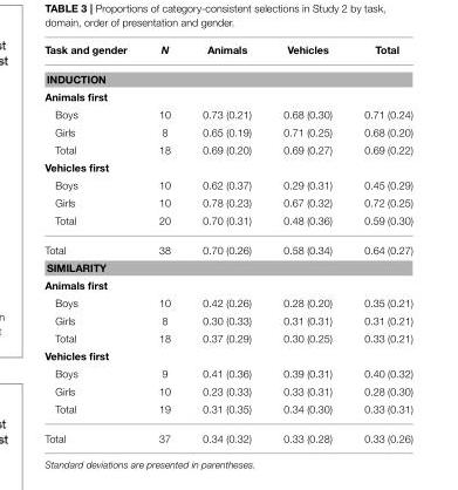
<table><thead><tr><td>Task and gender</td><td>N</td><td>Animals</td><td>Vehicles</td><td>Total</td></tr></thead><tbody><tr><td colspan="5">INDUCTION</td></tr><tr><td colspan="5">Animals first</td></tr><tr><td>Boys</td><td>10</td><td>0.73 (0.21)</td><td>0.68 (0.30)</td><td>0.71 (0.24)</td></tr><tr><td>Girls</td><td>8</td><td>0.65 (0.19)</td><td>0.71 (0.25)</td><td>0.68 (0.20)</td></tr><tr><td>Total</td><td>18</td><td>0.69 (0.20)</td><td>0.69 (0.27)</td><td>0.69 (0.22)</td></tr><tr><td colspan="5">Vehicles first</td></tr><tr><td>Boys</td><td>10</td><td>0.62 (0.37)</td><td>0.29 (0.31)</td><td>0.45 (0.29)</td></tr><tr><td>Girls</td><td>10</td><td>0.78 (0.23)</td><td>0.67 (0.32)</td><td>0.72 (0.25)</td></tr><tr><td>Total</td><td>20</td><td>0.70 (0.31)</td><td>0.48 (0.36)</td><td>0.59 (0.30)</td></tr><tr><td>Total</td><td>38</td><td>0.70 (0.26)</td><td>0.58 (0.34)</td><td>0.64 (0.27)</td></tr><tr><td colspan="5">SIMILARITY</td></tr><tr><td colspan="5">Animals first</td></tr><tr><td>Boys</td><td>10</td><td>0.42 (0.26)</td><td>0.28 (0.20)</td><td>0.35 (0.21)</td></tr><tr><td>Girls</td><td>8</td><td>0.30 (0.33)</td><td>0.31 (0.31)</td><td>0.31 (0.21)</td></tr><tr><td>Total</td><td>18</td><td>0.37 (0.29)</td><td>0.30 (0.25)</td><td>0.33 (0.21)</td></tr><tr><td colspan="5">Vehicles first</td></tr><tr><td>Boys</td><td>9</td><td>0.41 (0.36)</td><td>0.39 (0.31)</td><td>0.40 (0.32)</td></tr><tr><td>Girls</td><td>10</td><td>0.23 (0.33)</td><td>0.33 (0.31)</td><td>0.28 (0.30)</td></tr><tr><td>Total</td><td>19</td><td>0.31 (0.35)</td><td>0.34 (0.30)</td><td>0.33 (0.31)</td></tr><tr><td>Total</td><td>37</td><td>0.34 (0.32)</td><td>0.33 (0.28)</td><td>0.33 (0.26)</td></tr></tbody></table>